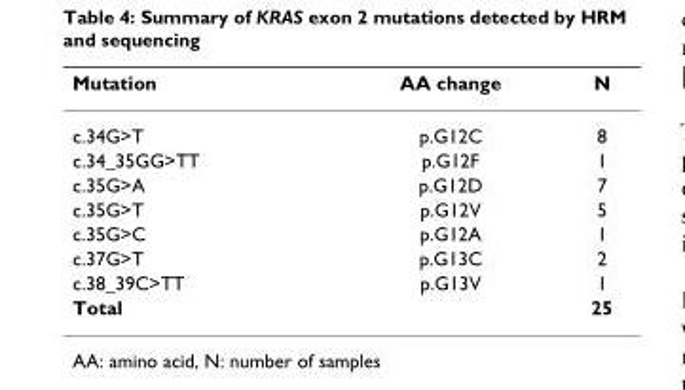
<table><thead><tr><td>Mutation</td><td>AA change</td><td>N</td></tr></thead><tbody><tr><td>c.34G&gt;T</td><td>p.G12C</td><td>8</td></tr><tr><td>c.34_35GG&gt;TT</td><td>p.G12F</td><td>1</td></tr><tr><td>c.35G&gt;A</td><td>p.G12D</td><td>7</td></tr><tr><td>c.35G&gt;T</td><td>p.G12V</td><td>5</td></tr><tr><td>c.35G&gt;C</td><td>p.G12A</td><td>1</td></tr><tr><td>c.37G&gt;T</td><td>p.G13C</td><td>2</td></tr><tr><td>c.38_39C&gt;TT</td><td>p.G13V</td><td>1</td></tr><tr><td>Total</td><td></td><td>25</td></tr></tbody></table>